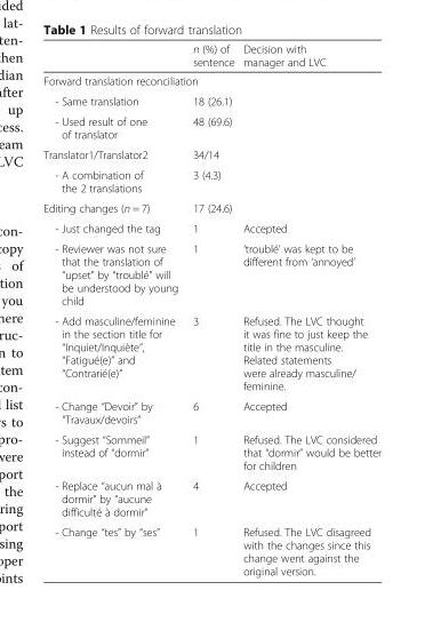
<table><thead><tr><td></td><td>n (%) of sentence</td><td>Decision with manager and LVC</td></tr></thead><tbody><tr><td colspan="3">Forward translation reconciliation</td></tr><tr><td>- Same translation</td><td>18 (26.1)</td><td></td></tr><tr><td>- Used result of one of translator</td><td>48 (69.6)</td><td></td></tr><tr><td>Translator1/Translator2</td><td>34/14</td><td></td></tr><tr><td>- A combination of the 2 translations</td><td>3 (4.3)</td><td></td></tr><tr><td>Editing changes (n = 7)</td><td>17 (24.6)</td><td></td></tr><tr><td>- Just changed the tag</td><td>1</td><td>Accepted</td></tr><tr><td>- Reviewer was not sure that the translation of “upset” by “troublé” will be understood by young child</td><td>1</td><td>‘troublé’ was kept to be different from ‘annoyed’</td></tr><tr><td>- Add masculine/feminine in the section title for “Inquiet/Inquiète”, “Fatigué(e)” and “Contrarié(e)”</td><td>3</td><td>Refused. The LVC thought it was fine to just keep the title in the masculine. Related statements were already masculine/ feminine.</td></tr><tr><td>- Change “Devoir” by “Travaux/devoirs”</td><td>6</td><td>Accepted</td></tr><tr><td>- Suggest “Sommeil” instead of “dormir”</td><td>1</td><td>Refused. The LVC considered that “dormir” would be better for children</td></tr><tr><td>- Replace “aucun mal à dormir” by “aucune difficulté à dormir”</td><td>4</td><td>Accepted</td></tr><tr><td>- Change “tes” by “ses”</td><td>1</td><td>Refused. The LVC disagreed with the changes since this change went against the original version.</td></tr></tbody></table>